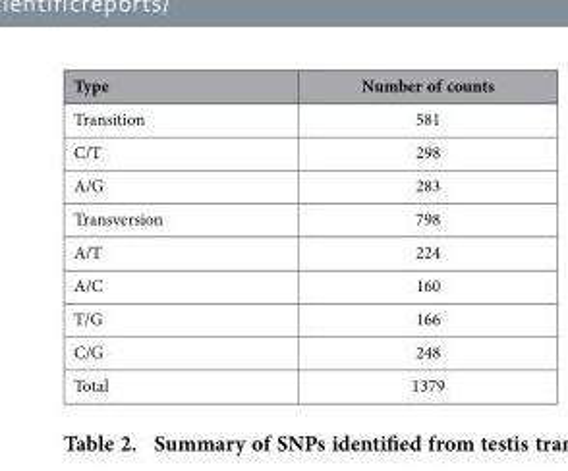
<table><thead><tr><td>Type</td><td>Number of counts</td></tr></thead><tbody><tr><td>Transition</td><td>581</td></tr><tr><td>C/T</td><td>298</td></tr><tr><td>A/G</td><td>283</td></tr><tr><td>Transversion</td><td>798</td></tr><tr><td>A/T</td><td>224</td></tr><tr><td>A/C</td><td>160</td></tr><tr><td>T/G</td><td>166</td></tr><tr><td>C/G</td><td>248</td></tr><tr><td>Total</td><td>1379</td></tr></tbody></table>